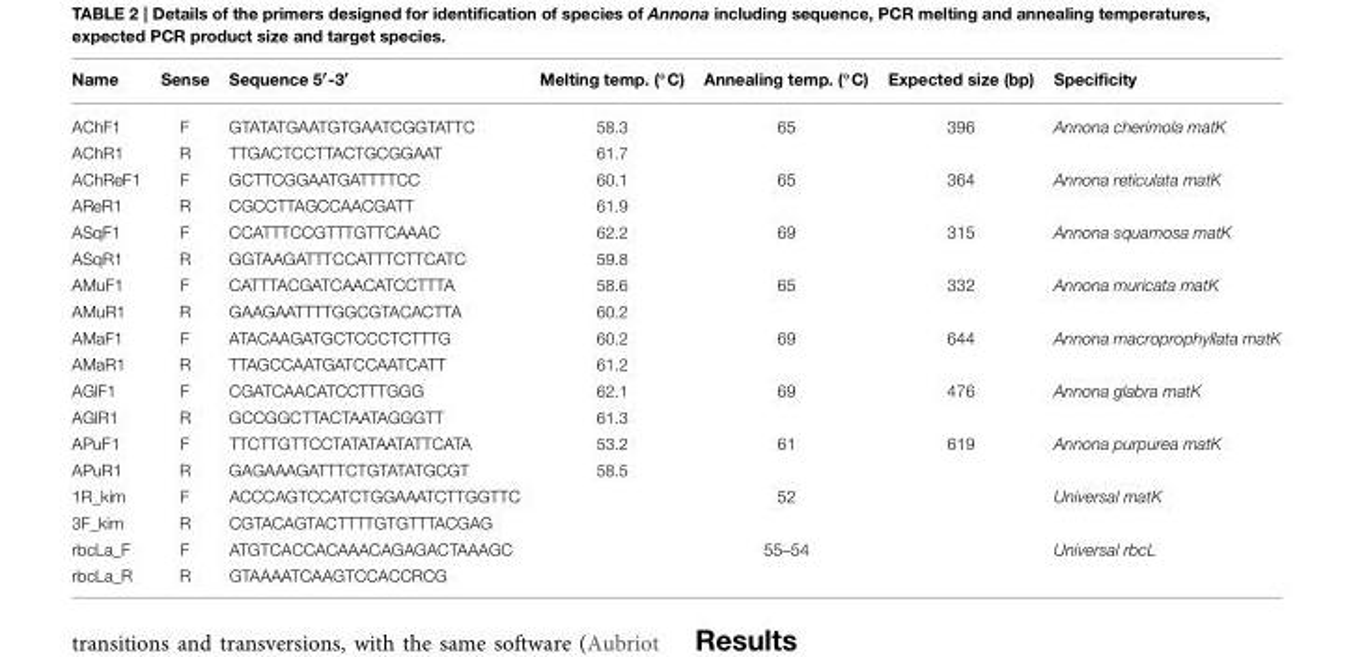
<table><thead><tr><td>Name</td><td>Sense</td><td>Sequence 5′-3′</td><td>Melting temp. (◦C)</td><td>Annealing temp. (◦C)</td><td>Expected size (bp)</td><td>Specificity</td></tr></thead><tbody><tr><td>AChF1</td><td>F</td><td>GTATATGAATGTGAATCGGTATTC</td><td>58.3</td><td>65</td><td>396</td><td>Annona cherimola matK</td></tr><tr><td>AChR1</td><td>R</td><td>TTGACTCCTTACTGCGGAAT</td><td>61.7</td><td></td><td></td><td></td></tr><tr><td>AChReF1</td><td>F</td><td>GCTTCGGAATGATTTTCC</td><td>60.1</td><td>65</td><td>364</td><td>Annona reticulata matK</td></tr><tr><td>AReR1</td><td>R</td><td>CGCCTTAGCCAACGATT</td><td>61.9</td><td></td><td></td><td></td></tr><tr><td>ASqF1</td><td>F</td><td>CCATTTCCGTTTGTTCAAAC</td><td>62.2</td><td>69</td><td>315</td><td>Annona squamosa matK</td></tr><tr><td>ASqR1</td><td>R</td><td>GGTAAGATTTCCATTTCTTCATC</td><td>59.8</td><td></td><td></td><td></td></tr><tr><td>AMuF1</td><td>F</td><td>CATTTACGATCAACATCCTTTA</td><td>58.6</td><td>65</td><td>332</td><td>Annona muricata matK</td></tr><tr><td>AMuR1</td><td>R</td><td>GAAGAATTTTGGCGTACACTTA</td><td>60.2</td><td></td><td></td><td></td></tr><tr><td>AMaF1</td><td>F</td><td>ATACAAGATGCTCCCTCTTTG</td><td>60.2</td><td>69</td><td>644</td><td>Annona macroprophyllata matK</td></tr><tr><td>AMaR1</td><td>R</td><td>TTAGCCAATGATCCAATCATT</td><td>61.2</td><td></td><td></td><td></td></tr><tr><td>AGlF1</td><td>F</td><td>CGATCAACATCCTTTGGG</td><td>62.1</td><td>69</td><td>476</td><td>Annona glabra matK</td></tr><tr><td>AGlR1</td><td>R</td><td>GCCGGCTTACTAATAGGGTT</td><td>61.3</td><td></td><td></td><td></td></tr><tr><td>APuF1</td><td>F</td><td>TTCTTGTTCCTATATAATATTCATA</td><td>53.2</td><td>61</td><td>619</td><td>Annona purpurea matK</td></tr><tr><td>APuR1</td><td>R</td><td>GAGAAAGATTTCTGTATATGCGT</td><td>58.5</td><td></td><td></td><td></td></tr><tr><td>1R_kim</td><td>F</td><td>ACCCAGTCCATCTGGAAATCTTGGTTC</td><td></td><td>52</td><td></td><td>Universal matK</td></tr><tr><td>3F_kim</td><td>R</td><td>CGTACAGTACTTTTGTGTTTACGAG</td><td></td><td></td><td></td><td></td></tr><tr><td>rbcLa_F</td><td>F</td><td>ATGTCACCACAAACAGAGACTAAAGC</td><td></td><td>55–54</td><td></td><td>Universal rbcL</td></tr><tr><td>rbcLa_R</td><td>R</td><td>GTAAAATCAAGTCCACCRCG</td><td></td><td></td><td></td><td></td></tr></tbody></table>